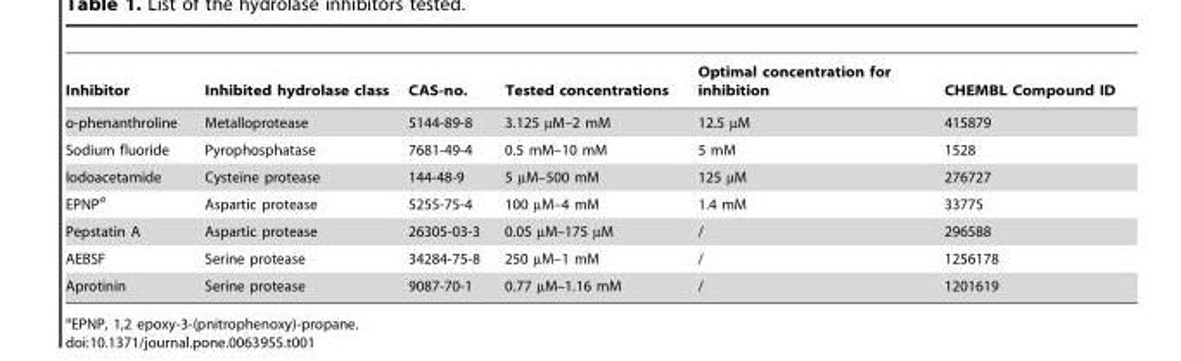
<table><thead><tr><td>Inhibitor</td><td>Inhibited hydrolase class</td><td>CAS-no.</td><td>Tested concentrations</td><td>Optimal concentration for inhibition</td><td>CHEMBL Compound ID</td></tr></thead><tbody><tr><td>o-phenanthroline</td><td>Metalloprotease</td><td>5144-89-8</td><td>3.125 µM–2 mM</td><td>12.5 µM</td><td>415879</td></tr><tr><td>Sodium fluoride</td><td>Pyrophosphatase</td><td>7681-49-4</td><td>0.5 mM–10 mM</td><td>5 mM</td><td>1528</td></tr><tr><td>Iodoacetamide</td><td>Cysteine protease</td><td>144-48-9</td><td>5 µM–500 mM</td><td>125 µM</td><td>276727</td></tr><tr><td>EPNP<sup>a</sup></td><td>Aspartic protease</td><td>5255-75-4</td><td>100 µM–4 mM</td><td>1.4 mM</td><td>33775</td></tr><tr><td>Pepstatin A</td><td>Aspartic protease</td><td>26305-03-3</td><td>0.05 µM–175 µM</td><td>/</td><td>296588</td></tr><tr><td>AEBSF</td><td>Serine protease</td><td>34284-75-8</td><td>250 µM–1 mM</td><td>/</td><td>1256178</td></tr><tr><td>Aprotinin</td><td>Serine protease</td><td>9087-70-1</td><td>0.77 µM–1.16 mM</td><td>/</td><td>1201619</td></tr></tbody></table>